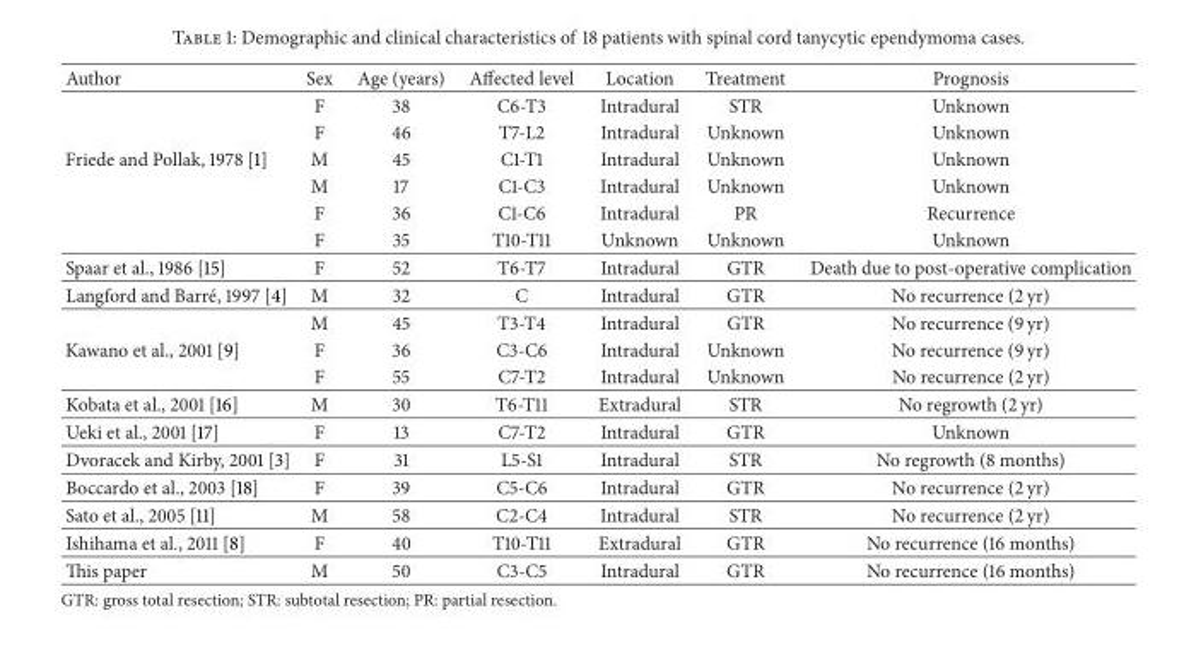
<table><thead><tr><td>Author</td><td>Sex</td><td>Age (years)</td><td>Affected level</td><td>Location</td><td>Treatment</td><td>Prognosis</td></tr></thead><tbody><tr><td rowspan="6">Friede and Pollak, 1978 [1]</td><td>F</td><td>38</td><td>C6-T3</td><td>Intradural</td><td>STR</td><td>Unknown</td></tr><tr><td>F</td><td>46</td><td>T7-L2</td><td>Intradural</td><td>Unknown</td><td>Unknown</td></tr><tr><td>M</td><td>45</td><td>C1-T1</td><td>Intradural</td><td>Unknown</td><td>Unknown</td></tr><tr><td>M</td><td>17</td><td>C1-C3</td><td>Intradural</td><td>Unknown</td><td>Unknown</td></tr><tr><td>F</td><td>36</td><td>C1-C6</td><td>Intradural</td><td>PR</td><td>Recurrence</td></tr><tr><td>F</td><td>35</td><td>T10-T11</td><td>Unknown</td><td>Unknown</td><td>Unknown</td></tr><tr><td>Spaar et al., 1986 [15]</td><td>F</td><td>52</td><td>T6-T7</td><td>Intradural</td><td>GTR</td><td>Death due to post-operative complication</td></tr><tr><td>Langford and Barr´e, 1997 [4]</td><td>M</td><td>32</td><td>C</td><td>Intradural</td><td>GTR</td><td>No recurrence (2 yr)</td></tr><tr><td rowspan="3">Kawano et al., 2001 [9]</td><td>M</td><td>45</td><td>T3-T4</td><td>Intradural</td><td>GTR</td><td>No recurrence (9 yr)</td></tr><tr><td>F</td><td>36</td><td>C3-C6</td><td>Intradural</td><td>Unknown</td><td>No recurrence (9 yr)</td></tr><tr><td>F</td><td>55</td><td>C7-T2</td><td>Intradural</td><td>Unknown</td><td>No recurrence (2 yr)</td></tr><tr><td>Kobata et al., 2001 [16]</td><td>M</td><td>30</td><td>T6-T11</td><td>Extradural</td><td>STR</td><td>No regrowth (2 yr)</td></tr><tr><td>Ueki et al., 2001 [17]</td><td>F</td><td>13</td><td>C7-T2</td><td>Intradural</td><td>GTR</td><td>Unknown</td></tr><tr><td>Dvoracek and Kirby, 2001 [3]</td><td>F</td><td>31</td><td>L5-S1</td><td>Intradural</td><td>STR</td><td>No regrowth (8 months)</td></tr><tr><td>Boccardo et al., 2003 [18]</td><td>F</td><td>39</td><td>C5-C6</td><td>Intradural</td><td>GTR</td><td>No recurrence (2 yr)</td></tr><tr><td>Sato et al., 2005 [11]</td><td>M</td><td>58</td><td>C2-C4</td><td>Intradural</td><td>STR</td><td>No recurrence (2 yr)</td></tr><tr><td>Ishihama et al., 2011 [8]</td><td>F</td><td>40</td><td>T10-T11</td><td>Extradural</td><td>GTR</td><td>No recurrence (16 months)</td></tr><tr><td>This paper</td><td>M</td><td>50</td><td>C3-C5</td><td>Intradural</td><td>GTR</td><td>No recurrence (16 months)</td></tr></tbody></table>